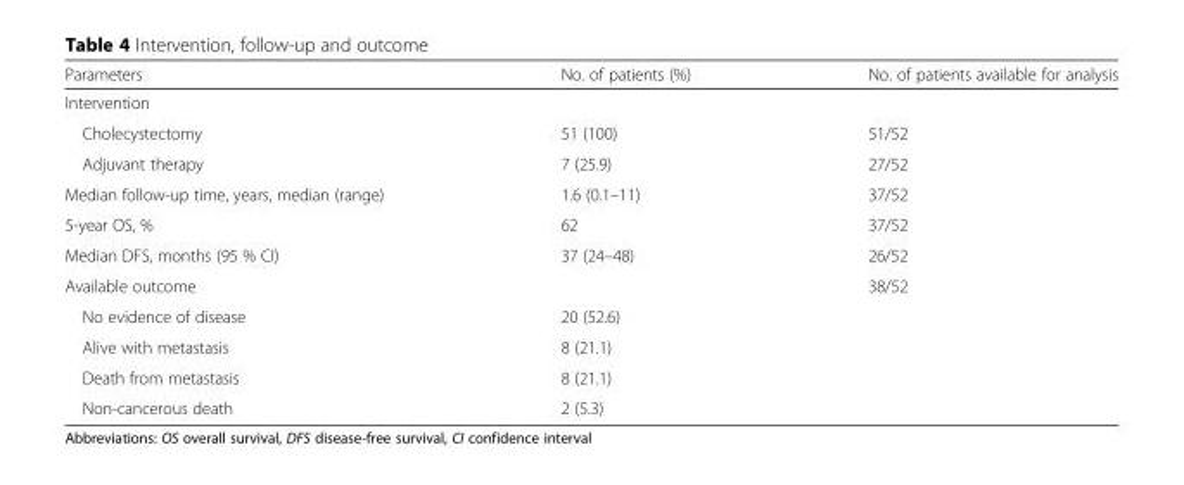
<table><thead><tr><td>Parameters</td><td>No. of patients (%)</td><td>No. of patients available for analysis</td></tr></thead><tbody><tr><td colspan="3">Intervention</td></tr><tr><td>Cholecystectomy</td><td>51 (100)</td><td>51/52</td></tr><tr><td>Adjuvant therapy</td><td>7 (25.9)</td><td>27/52</td></tr><tr><td>Median follow-up time, years, median (range)</td><td>1.6 (0.1–11)</td><td>37/52</td></tr><tr><td>5-year OS, %</td><td>62</td><td>37/52</td></tr><tr><td>Median DFS, months (95 % CI)</td><td>37 (24–48)</td><td>26/52</td></tr><tr><td>Available outcome</td><td></td><td>38/52</td></tr><tr><td>No evidence of disease</td><td>20 (52.6)</td><td></td></tr><tr><td>Alive with metastasis</td><td>8 (21.1)</td><td></td></tr><tr><td>Death from metastasis</td><td>8 (21.1)</td><td></td></tr><tr><td>Non-cancerous death</td><td>2 (5.3)</td><td></td></tr></tbody></table>